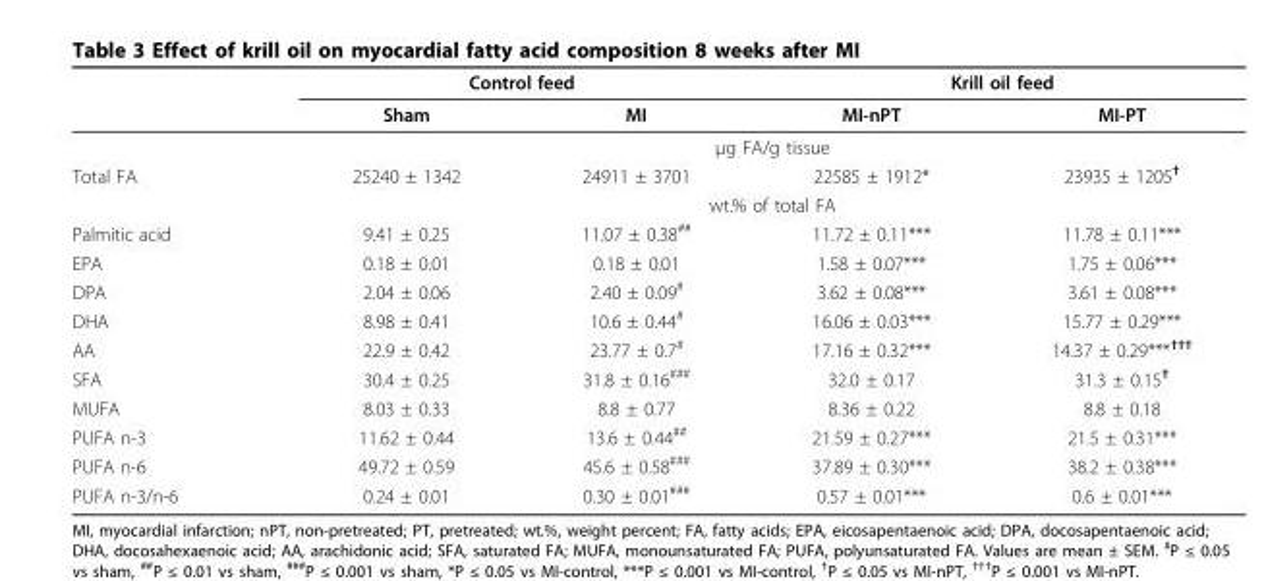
<table><thead><tr><td rowspan="2"></td><td colspan="2">Control feed</td><td colspan="2">Krill oil feed</td></tr><tr><td>Sham</td><td>MI</td><td>MI-nPT</td><td>MI-PT</td></tr></thead><tbody><tr><td></td><td colspan="4">μg FA/g tissue</td></tr><tr><td rowspan="2">Total FA</td><td>25240 ± 1342</td><td>24911 ± 3701</td><td>22585 ± 1912*</td><td>23935 ± 1205<sup>†</sup></td></tr><tr><td colspan="4">wt.% of total FA</td></tr><tr><td>Palmitic acid</td><td>9.41 ± 0.25</td><td>11.07 ± 0.38<sup>##</sup></td><td>11.72 ± 0.11***</td><td>11.78 ± 0.11***</td></tr><tr><td>EPA</td><td>0.18 ± 0.01</td><td>0.18 ± 0.01</td><td>1.58 ± 0.07***</td><td>1.75 ± 0.06***</td></tr><tr><td>DPA</td><td>2.04 ± 0.06</td><td>2.40 ± 0.09<sup>#</sup></td><td>3.62 ± 0.08***</td><td>3.61 ± 0.08***</td></tr><tr><td>DHA</td><td>8.98 ± 0.41</td><td>10.6 ± 0.44<sup>#</sup></td><td>16.06 ± 0.03***</td><td>15.77 ± 0.29***</td></tr><tr><td>AA</td><td>22.9 ± 0.42</td><td>23.77 ± 0.7<sup>#</sup></td><td>17.16 ± 0.32***</td><td>14.37 ± 0.29***<sup>†††</sup></td></tr><tr><td>SFA</td><td>30.4 ± 0.25</td><td>31.8 ± 0.16<sup>###</sup></td><td>32.0 ± 0.17</td><td>31.3 ± 0.15<sup>†</sup></td></tr><tr><td>MUFA</td><td>8.03 ± 0.33</td><td>8.8 ± 0.77</td><td>8.36 ± 0.22</td><td>8.8 ± 0.18</td></tr><tr><td>PUFA n-3</td><td>11.62 ± 0.44</td><td>13.6 ± 0.44<sup>##</sup></td><td>21.59 ± 0.27***</td><td>21.5 ± 0.31***</td></tr><tr><td>PUFA n-6</td><td>49.72 ± 0.59</td><td>45.6 ± 0.58<sup>###</sup></td><td>37.89 ± 0.30***</td><td>38.2 ± 0.38***</td></tr><tr><td>PUFA n-3/n-6</td><td>0.24 ± 0.01</td><td>0.30 ± 0.01<sup>###</sup></td><td>0.57 ± 0.01***</td><td>0.6 ± 0.01***</td></tr></tbody></table>